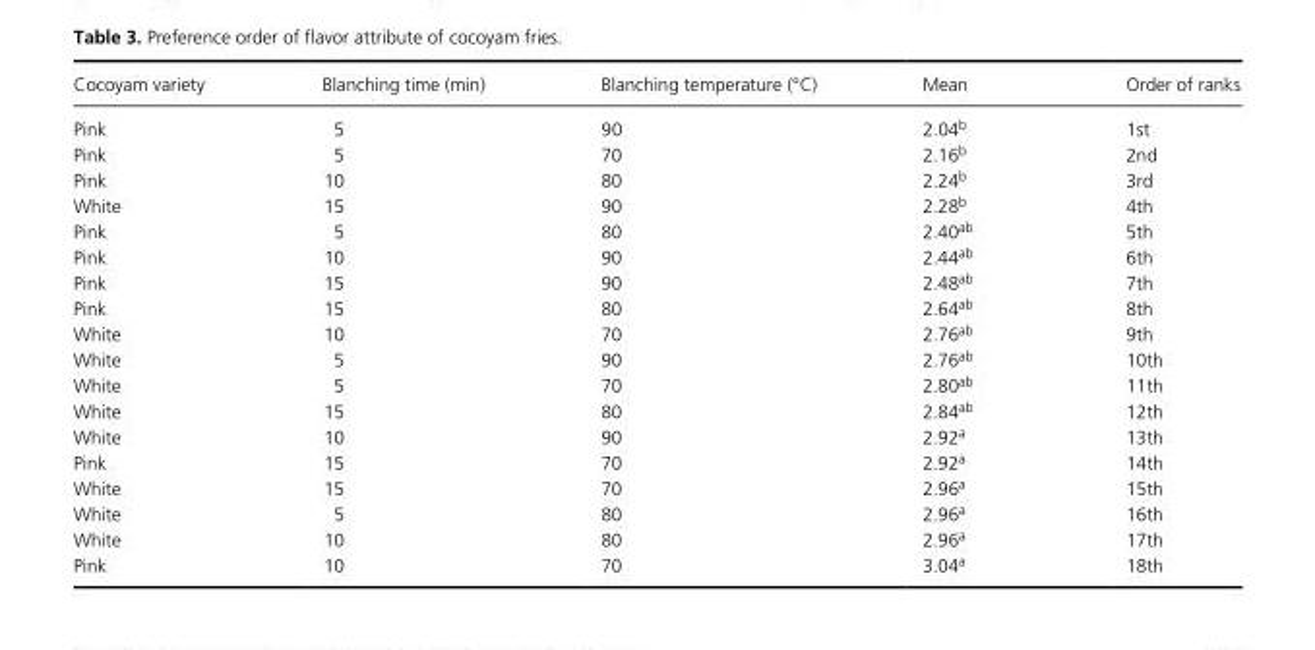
<table><thead><tr><td>Cocoyam variety</td><td>Blanching time (min)</td><td>Blanching temperature (°C)</td><td>Mean</td><td>Order of ranks</td></tr></thead><tbody><tr><td>Pink</td><td>5</td><td>90</td><td>2.04<sup>b</sup></td><td>1st</td></tr><tr><td>Pink</td><td>5</td><td>70</td><td>2.16<sup>b</sup></td><td>2nd</td></tr><tr><td>Pink</td><td>10</td><td>80</td><td>2.24<sup>b</sup></td><td>3rd</td></tr><tr><td>White</td><td>15</td><td>90</td><td>2.28<sup>b</sup></td><td>4th</td></tr><tr><td>Pink</td><td>5</td><td>80</td><td>2.40<sup>ab</sup></td><td>5th</td></tr><tr><td>Pink</td><td>10</td><td>90</td><td>2.44<sup>ab</sup></td><td>6th</td></tr><tr><td>Pink</td><td>15</td><td>90</td><td>2.48<sup>ab</sup></td><td>7th</td></tr><tr><td>Pink</td><td>15</td><td>80</td><td>2.64<sup>ab</sup></td><td>8th</td></tr><tr><td>White</td><td>10</td><td>70</td><td>2.76<sup>ab</sup></td><td>9th</td></tr><tr><td>White</td><td>5</td><td>90</td><td>2.76<sup>ab</sup></td><td>10th</td></tr><tr><td>White</td><td>5</td><td>70</td><td>2.80<sup>ab</sup></td><td>11th</td></tr><tr><td>White</td><td>15</td><td>80</td><td>2.84<sup>ab</sup></td><td>12th</td></tr><tr><td>White</td><td>10</td><td>90</td><td>2.92<sup>a</sup></td><td>13th</td></tr><tr><td>Pink</td><td>15</td><td>70</td><td>2.92<sup>a</sup></td><td>14th</td></tr><tr><td>White</td><td>15</td><td>70</td><td>2.96<sup>a</sup></td><td>15th</td></tr><tr><td>White</td><td>5</td><td>80</td><td>2.96<sup>a</sup></td><td>16th</td></tr><tr><td>White</td><td>10</td><td>80</td><td>2.96<sup>a</sup></td><td>17th</td></tr><tr><td>Pink</td><td>10</td><td>70</td><td>3.04<sup>a</sup></td><td>18th</td></tr></tbody></table>